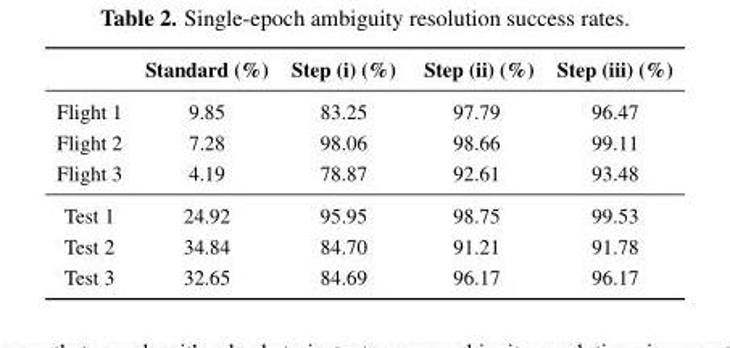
<table><thead><tr><td></td><td>Standard (%)</td><td>Step (i) (%)</td><td>Step (ii) (%)</td><td>Step (iii) (%)</td></tr></thead><tbody><tr><td>Flight 1</td><td>9.85</td><td>83.25</td><td>97.79</td><td>96.47</td></tr><tr><td>Flight 2</td><td>7.28</td><td>98.06</td><td>98.66</td><td>99.11</td></tr><tr><td>Flight 3</td><td>4.19</td><td>78.87</td><td>92.61</td><td>93.48</td></tr><tr><td>Test 1</td><td>24.92</td><td>95.95</td><td>98.75</td><td>99.53</td></tr><tr><td>Test 2</td><td>34.84</td><td>84.70</td><td>91.21</td><td>91.78</td></tr><tr><td>Test 3</td><td>32.65</td><td>84.69</td><td>96.17</td><td>96.17</td></tr></tbody></table>